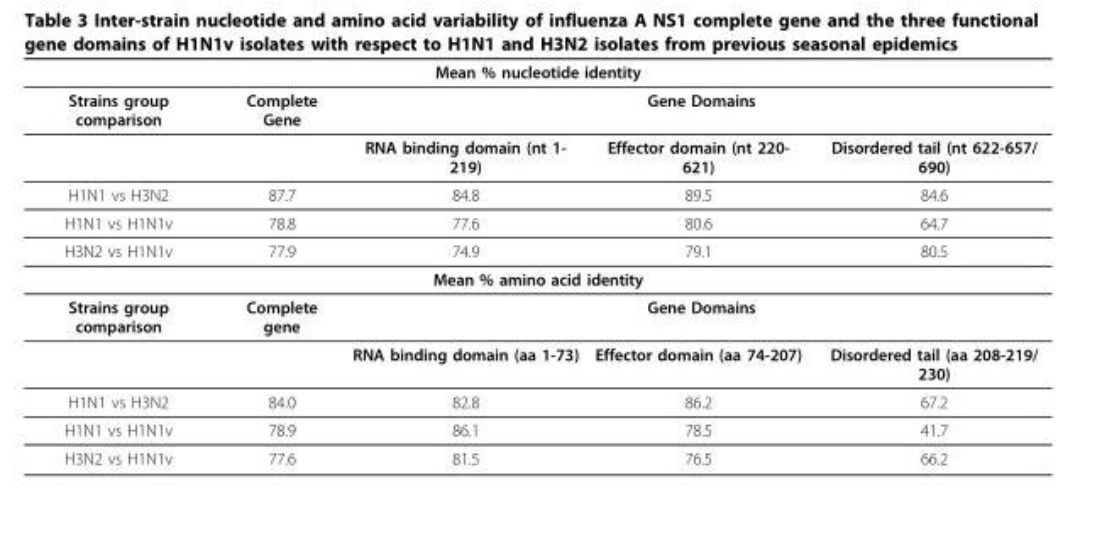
<table><thead><tr><td colspan="5">Mean % nucleotide identity</td></tr><tr><td rowspan="2">Strains group comparison</td><td rowspan="2">Complete Gene</td><td colspan="3">Gene Domains</td></tr><tr><td>RNA binding domain (nt 1- 219)</td><td>Effector domain (nt 220- 621)</td><td>Disordered tail (nt 622-657/ 690)</td></tr></thead><tbody><tr><td>H1N1 vs H3N2</td><td>87.7</td><td>84.8</td><td>89.5</td><td>84.6</td></tr><tr><td>H1N1 vs H1N1v</td><td>78.8</td><td>77.6</td><td>80.6</td><td>64.7</td></tr><tr><td>H3N2 vs H1N1v</td><td>77.9</td><td>74.9</td><td>79.1</td><td>80.5</td></tr><tr><td colspan="5">Mean % amino acid identity</td></tr><tr><td rowspan="2">Strains group comparison</td><td>Complete gene</td><td colspan="3">Gene Domains</td></tr><tr><td></td><td>RNA binding domain (aa 1-73)</td><td>Effector domain (aa 74-207)</td><td>Disordered tail (aa 208-219/ 230)</td></tr><tr><td>H1N1 vs H3N2</td><td>84.0</td><td>82.8</td><td>86.2</td><td>67.2</td></tr><tr><td>H1N1 vs H1N1v</td><td>78.9</td><td>86.1</td><td>78.5</td><td>41.7</td></tr><tr><td>H3N2 vs H1N1v</td><td>77.6</td><td>81.5</td><td>76.5</td><td>66.2</td></tr></tbody></table>